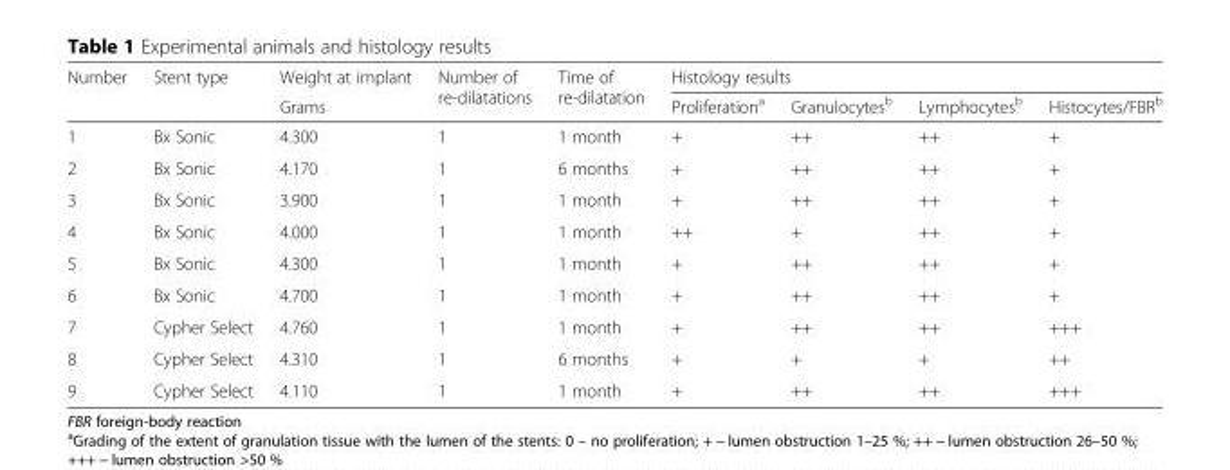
<table><thead><tr><td rowspan="2">Number</td><td rowspan="2">Stent type</td><td rowspan="2">Weight at implant Grams</td><td rowspan="2">Number of re-dilatations</td><td rowspan="2">Time of re-dilatation</td><td colspan="4">Histology results</td></tr><tr><td>Proliferation<sup>a</sup></td><td>Granulocytes<sup>b</sup></td><td>Lymphocytes<sup>b</sup></td><td>Histocytes/FBR<sup>b</sup></td></tr></thead><tbody><tr><td>1</td><td>Bx Sonic</td><td>4.300</td><td>1</td><td>1 month</td><td>+</td><td>++</td><td>++</td><td>+</td></tr><tr><td>2</td><td>Bx Sonic</td><td>4.170</td><td>1</td><td>6 months</td><td>+</td><td>++</td><td>++</td><td>+</td></tr><tr><td>3</td><td>Bx Sonic</td><td>3.900</td><td>1</td><td>1 month</td><td>+</td><td>++</td><td>++</td><td>+</td></tr><tr><td>4</td><td>Bx Sonic</td><td>4.000</td><td>1</td><td>1 month</td><td>++</td><td>+</td><td>++</td><td>+</td></tr><tr><td>5</td><td>Bx Sonic</td><td>4.300</td><td>1</td><td>1 month</td><td>+</td><td>++</td><td>++</td><td>+</td></tr><tr><td>6</td><td>Bx Sonic</td><td>4.700</td><td>1</td><td>1 month</td><td>+</td><td>++</td><td>++</td><td>+</td></tr><tr><td>7</td><td>Cypher Select</td><td>4.760</td><td>1</td><td>1 month</td><td>+</td><td>++</td><td>++</td><td>+++</td></tr><tr><td>8</td><td>Cypher Select</td><td>4.310</td><td>1</td><td>6 months</td><td>+</td><td>+</td><td>+</td><td>++</td></tr><tr><td>9</td><td>Cypher Select</td><td>4.110</td><td>1</td><td>1 month</td><td>+</td><td>++</td><td>++</td><td>+++</td></tr></tbody></table>